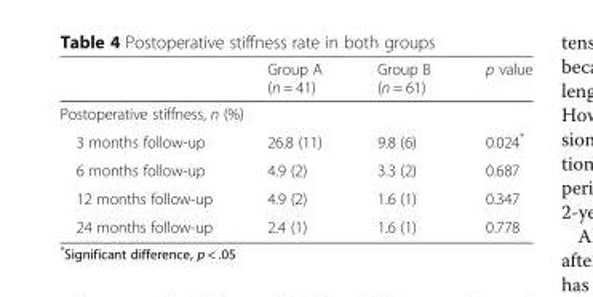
<table><thead><tr><td></td><td>Group A (n = 41)</td><td>Group B (n = 61)</td><td>p value</td></tr></thead><tbody><tr><td colspan="4">Postoperative stiffness, n (%)</td></tr><tr><td>3 months follow-up</td><td>26.8 (11)</td><td>9.8 (6)</td><td>0.024*</td></tr><tr><td>6 months follow-up</td><td>4.9 (2)</td><td>3.3 (2)</td><td>0.687</td></tr><tr><td>12 months follow-up</td><td>4.9 (2)</td><td>1.6 (1)</td><td>0.347</td></tr><tr><td>24 months follow-up</td><td>2.4 (1)</td><td>1.6 (1)</td><td>0.778</td></tr></tbody></table>